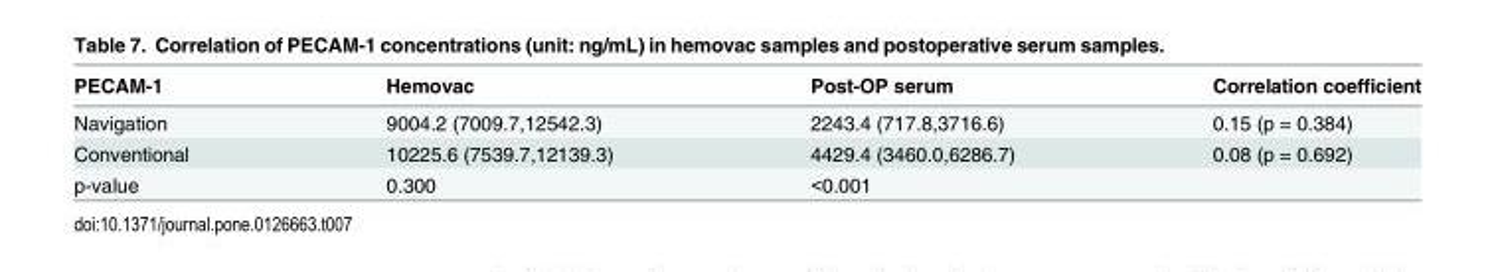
<table><thead><tr><td>PECAM-1</td><td>Hemovac</td><td>Post-OP serum</td><td>Correlation coefficient</td></tr></thead><tbody><tr><td>Navigation</td><td>9004.2 (7009.7,12542.3)</td><td>2243.4 (717.8,3716.6)</td><td>0.15 (p = 0.384)</td></tr><tr><td>Conventional</td><td>10225.6 (7539.7,12139.3)</td><td>4429.4 (3460.0,6286.7)</td><td>0.08 (p = 0.692)</td></tr><tr><td>p-value</td><td>0.300</td><td>&lt;0.001</td><td></td></tr></tbody></table>